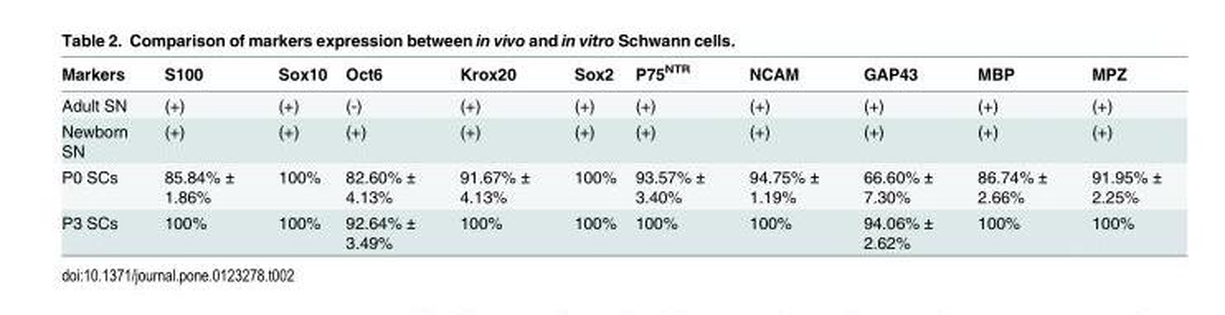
<table><thead><tr><td>Markers</td><td>S100</td><td>Sox10</td><td>Oct6</td><td>Krox20</td><td>Sox2</td><td>P75<sup>NTR</sup></td><td>NCAM</td><td>GAP43</td><td>MBP</td><td>MPZ</td></tr></thead><tbody><tr><td>Adult SN</td><td>(+)</td><td>(+)</td><td>(-)</td><td>(+)</td><td>(+)</td><td>(+)</td><td>(+)</td><td>(+)</td><td>(+)</td><td>(+)</td></tr><tr><td>Newborn SN</td><td>(+)</td><td>(+)</td><td>(+)</td><td>(+)</td><td>(+)</td><td>(+)</td><td>(+)</td><td>(+)</td><td>(+)</td><td>(+)</td></tr><tr><td>P0 SCs</td><td>85.84% ± 1.86%</td><td>100%</td><td>82.60% ± 4.13%</td><td>91.67% ± 4.13%</td><td>100%</td><td>93.57% ± 3.40%</td><td>94.75% ± 1.19%</td><td>66.60% ± 7.30%</td><td>86.74% ± 2.66%</td><td>91.95% ± 2.25%</td></tr><tr><td>P3 SCs</td><td>100%</td><td>100%</td><td>92.64% ± 3.49%</td><td>100%</td><td>100%</td><td>100%</td><td>100%</td><td>94.06% ± 2.62%</td><td>100%</td><td>100%</td></tr></tbody></table>